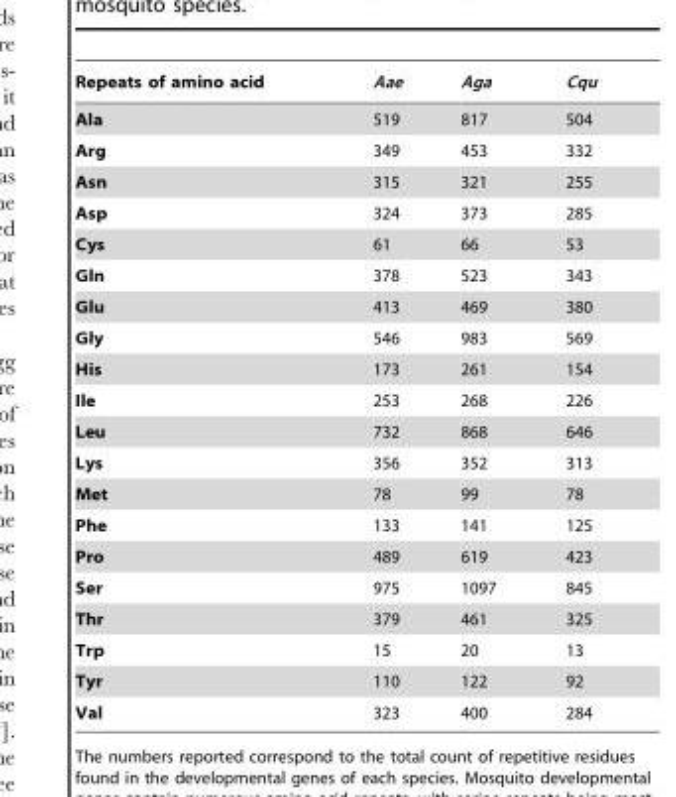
<table><thead><tr><td>Repeats of amino acid</td><td>Aae</td><td>Aga</td><td>Cqu</td></tr></thead><tbody><tr><td>Ala</td><td>519</td><td>817</td><td>504</td></tr><tr><td>Arg</td><td>349</td><td>453</td><td>332</td></tr><tr><td>Asn</td><td>315</td><td>321</td><td>255</td></tr><tr><td>Asp</td><td>324</td><td>373</td><td>285</td></tr><tr><td>Cys</td><td>61</td><td>66</td><td>53</td></tr><tr><td>Gln</td><td>378</td><td>523</td><td>343</td></tr><tr><td>Glu</td><td>413</td><td>469</td><td>380</td></tr><tr><td>Gly</td><td>546</td><td>983</td><td>569</td></tr><tr><td>His</td><td>173</td><td>261</td><td>154</td></tr><tr><td>Ile</td><td>253</td><td>268</td><td>226</td></tr><tr><td>Leu</td><td>732</td><td>868</td><td>646</td></tr><tr><td>Lys</td><td>356</td><td>352</td><td>313</td></tr><tr><td>Met</td><td>78</td><td>99</td><td>78</td></tr><tr><td>Phe</td><td>133</td><td>141</td><td>125</td></tr><tr><td>Pro</td><td>489</td><td>619</td><td>423</td></tr><tr><td>Ser</td><td>975</td><td>1097</td><td>845</td></tr><tr><td>Thr</td><td>379</td><td>461</td><td>325</td></tr><tr><td>Trp</td><td>15</td><td>20</td><td>13</td></tr><tr><td>Tyr</td><td>110</td><td>122</td><td>92</td></tr><tr><td>Val</td><td>323</td><td>400</td><td>284</td></tr></tbody></table>